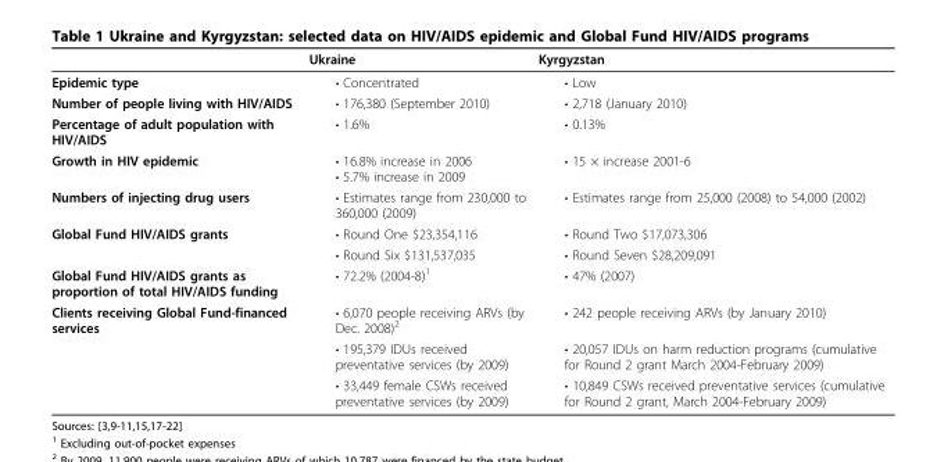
<table><thead><tr><td></td><td>Ukraine</td><td>Kyrgyzstan</td></tr></thead><tbody><tr><td>Epidemic type</td><td>• Concentrated</td><td>• Low</td></tr><tr><td>Number of people living with HIV/AIDS</td><td>• 176,380 (September 2010)</td><td>• 2,718 (January 2010)</td></tr><tr><td>Percentage of adult population with HIV/AIDS</td><td>• 1.6%</td><td>• 0.13%</td></tr><tr><td>Growth in HIV epidemic</td><td>• 16.8% increase in 2006 • 5.7% increase in 2009</td><td>• 15 × increase 2001-6</td></tr><tr><td>Numbers of injecting drug users</td><td>• Estimates range from 230,000 to 360,000 (2009)</td><td>• Estimates range from 25,000 (2008) to 54,000 (2002)</td></tr><tr><td rowspan="2">Global Fund HIV/AIDS grants</td><td>• Round One $23,354,116</td><td>• Round Two $17,073,306</td></tr><tr><td>• Round Six $131,537,035</td><td>• Round Seven $28,209,091</td></tr><tr><td>Global Fund HIV/AIDS grants as proportion of total HIV/AIDS funding</td><td>• 72.2% (2004-8)<sup>1</sup></td><td>• 47% (2007)</td></tr><tr><td rowspan="3">Clients receiving Global Fund-financed services</td><td>• 6,070 people receiving ARVs (by Dec. 2008)<sup>2</sup></td><td>• 242 people receiving ARVs (by January 2010)</td></tr><tr><td>• 195,379 IDUs received preventative services (by 2009)</td><td>• 20,057 IDUs on harm reduction programs (cumulative for Round 2 grant March 2004-February 2009)</td></tr><tr><td>• 33,449 female CSWs received preventative services (by 2009)</td><td>• 10,849 CSWs received preventative services (cumulative for Round 2 grant, March 2004-February 2009)</td></tr></tbody></table>